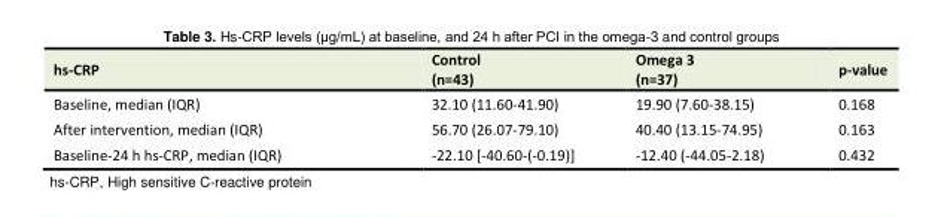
<table><tbody><tr><td>hs-CRP</td><td>Control (n=43)</td><td>Omega 3 (n=37)</td><td>p-value</td></tr><tr><td>Baseline, median (IQR)</td><td>32.10 (11.60-41.90)</td><td>19.90 (7.60-38.15)</td><td>0.168</td></tr><tr><td>After intervention, median (IQR)</td><td>56.70 (26.07-79.10)</td><td>40.40 (13.15-74.95)</td><td>0.163</td></tr><tr><td>Baseline-24 h hs-CRP, median (IQR)</td><td>-22.10 [-40.60-(-0.19)]</td><td>-12.40 (-44.05-2.18)</td><td>0.432</td></tr></tbody></table>